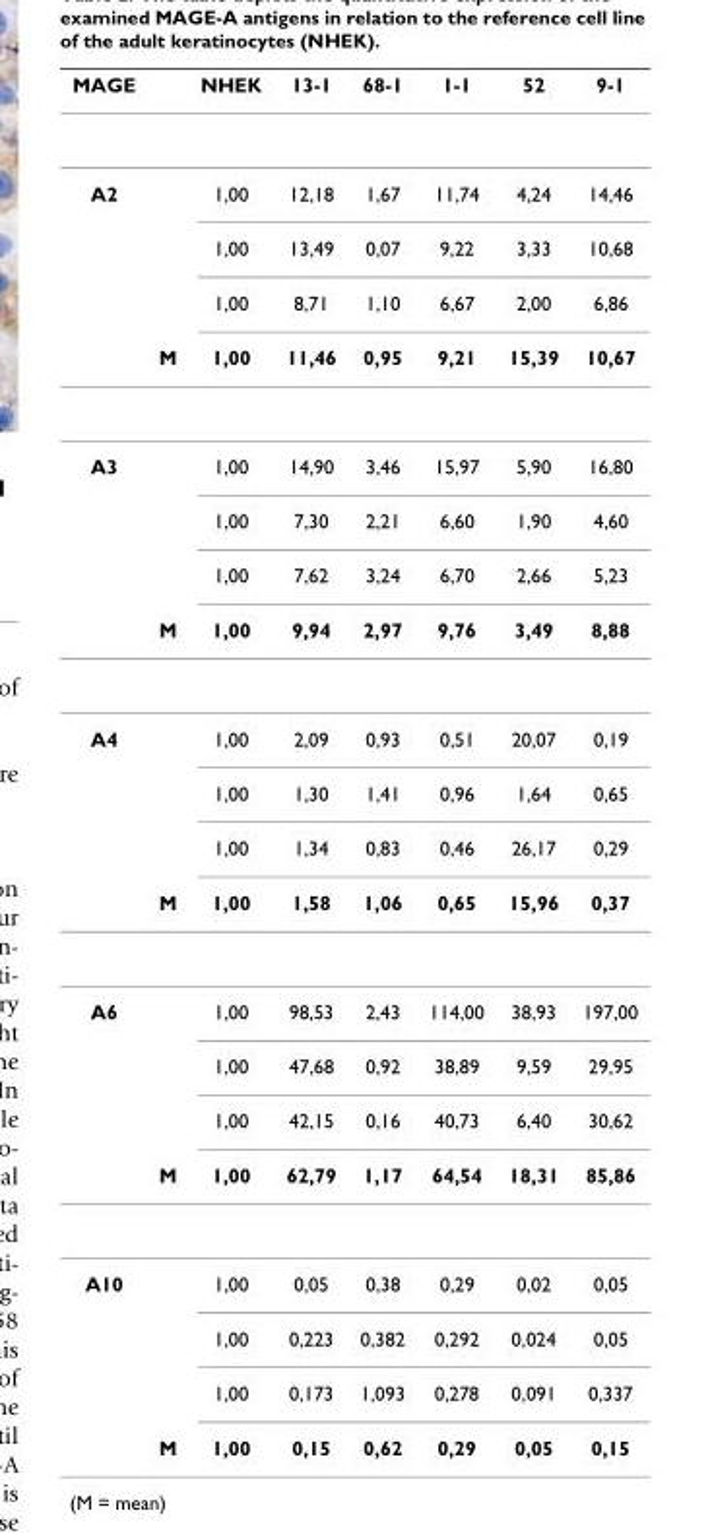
<table><thead><tr><td>MAGE</td><td></td><td>NHEK</td><td>13-1</td><td>68-1</td><td>1-1</td><td>52</td><td>9-1</td></tr></thead><tbody><tr><td rowspan="4">A2</td><td></td><td>1,00</td><td>12,18</td><td>1,67</td><td>11,74</td><td>4,24</td><td>14,46</td></tr><tr><td></td><td>1,00</td><td>13,49</td><td>0,07</td><td>9,22</td><td>3,33</td><td>10,68</td></tr><tr><td></td><td>1,00</td><td>8,71</td><td>1,10</td><td>6,67</td><td>2,00</td><td>6,86</td></tr><tr><td>M</td><td>1,00</td><td>11,46</td><td>0,95</td><td>9,21</td><td>15,39</td><td>10,67</td></tr><tr><td rowspan="4">A3</td><td></td><td>1,00</td><td>14,90</td><td>3,46</td><td>15,97</td><td>5,90</td><td>16,80</td></tr><tr><td></td><td>1,00</td><td>7,30</td><td>2,21</td><td>6,60</td><td>1,90</td><td>4,60</td></tr><tr><td></td><td>1,00</td><td>7,62</td><td>3,24</td><td>6,70</td><td>2,66</td><td>5,23</td></tr><tr><td>M</td><td>1,00</td><td>9,94</td><td>2,97</td><td>9,76</td><td>3,49</td><td>8,88</td></tr><tr><td rowspan="4">A4</td><td></td><td>1,00</td><td>2,09</td><td>0,93</td><td>0,51</td><td>20,07</td><td>0,19</td></tr><tr><td></td><td>1,00</td><td>1,30</td><td>1,41</td><td>0,96</td><td>1,64</td><td>0,65</td></tr><tr><td></td><td>1,00</td><td>1,34</td><td>0,83</td><td>0,46</td><td>26,17</td><td>0,29</td></tr><tr><td>M</td><td>1,00</td><td>1,58</td><td>1,06</td><td>0,65</td><td>15,96</td><td>0,37</td></tr><tr><td rowspan="4">A6</td><td></td><td>1,00</td><td>98,53</td><td>2,43</td><td>114,00</td><td>38,93</td><td>197,00</td></tr><tr><td></td><td>1,00</td><td>47,68</td><td>0,92</td><td>38,89</td><td>9,59</td><td>29,95</td></tr><tr><td></td><td>1,00</td><td>42,15</td><td>0,16</td><td>40,73</td><td>6,40</td><td>30,62</td></tr><tr><td>M</td><td>1,00</td><td>62,79</td><td>1,17</td><td>64,54</td><td>18,31</td><td>85,86</td></tr><tr><td rowspan="4">A10</td><td></td><td>1,00</td><td>0,05</td><td>0,38</td><td>0,29</td><td>0,02</td><td>0,05</td></tr><tr><td></td><td>1,00</td><td>0,223</td><td>0,382</td><td>0,292</td><td>0,024</td><td>0,05</td></tr><tr><td></td><td>1,00</td><td>0,173</td><td>1,093</td><td>0,278</td><td>0,091</td><td>0,337</td></tr><tr><td>M</td><td>1,00</td><td>0,15</td><td>0,62</td><td>0,29</td><td>0,05</td><td>0,15</td></tr></tbody></table>